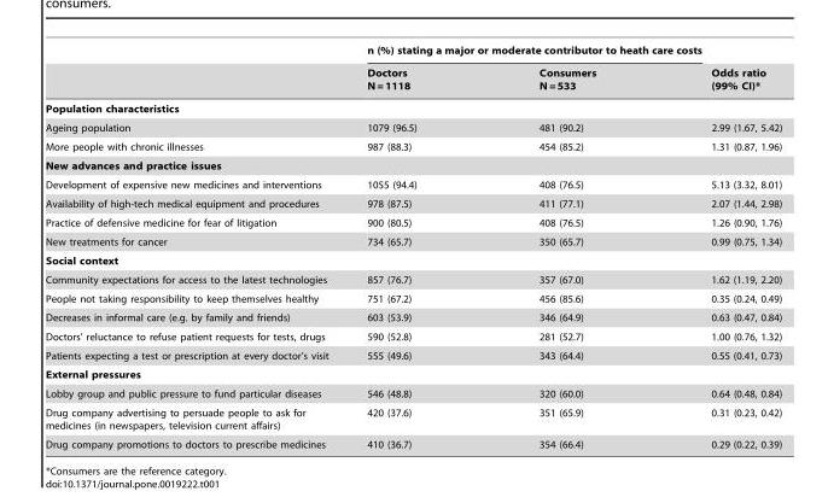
<table><thead><tr><td rowspan="2"></td><td colspan="2">n (%) stating a major or moderate contributor to heath care costs</td><td rowspan="2">Odds ratio (99% CI)*</td></tr><tr><td>Doctors N = 1118</td><td>Consumers N = 533</td></tr></thead><tbody><tr><td colspan="4">Population characteristics</td></tr><tr><td>Ageing population</td><td>1079 (96.5)</td><td>481 (90.2)</td><td>2.99 (1.67, 5.42)</td></tr><tr><td>More people with chronic illnesses</td><td>987 (88.3)</td><td>454 (85.2)</td><td>1.31 (0.87, 1.96)</td></tr><tr><td colspan="4">New advances and practice issues</td></tr><tr><td>Development of expensive new medicines and interventions</td><td>1055 (94.4)</td><td>408 (76.5)</td><td>5.13 (3.32, 8.01)</td></tr><tr><td>Availability of high-tech medical equipment and procedures</td><td>978 (87.5)</td><td>411 (77.1)</td><td>2.07 (1.44, 2.98)</td></tr><tr><td>Practice of defensive medicine for fear of litigation</td><td>900 (80.5)</td><td>408 (76.5)</td><td>1.26 (0.90, 1.76)</td></tr><tr><td>New treatments for cancer</td><td>734 (65.7)</td><td>350 (65.7)</td><td>0.99 (0.75, 1.34)</td></tr><tr><td colspan="4">Social context</td></tr><tr><td>Community expectations for access to the latest technologies</td><td>857 (76.7)</td><td>357 (67.0)</td><td>1.62 (1.19, 2.20)</td></tr><tr><td>People not taking responsibility to keep themselves healthy</td><td>751 (67.2)</td><td>456 (85.6)</td><td>0.35 (0.24, 0.49)</td></tr><tr><td>Decreases in informal care (e.g. by family and friends)</td><td>603 (53.9)</td><td>346 (64.9)</td><td>0.63 (0.47, 0.84)</td></tr><tr><td>Doctors’ reluctance to refuse patient requests for tests, drugs</td><td>590 (52.8)</td><td>281 (52.7)</td><td>1.00 (0.76, 1.32)</td></tr><tr><td>Patients expecting a test or prescription at every doctor’s visit</td><td>555 (49.6)</td><td>343 (64.4)</td><td>0.55 (0.41, 0.73)</td></tr><tr><td colspan="4">External pressures</td></tr><tr><td>Lobby group and public pressure to fund particular diseases</td><td>546 (48.8)</td><td>320 (60.0)</td><td>0.64 (0.48, 0.84)</td></tr><tr><td>Drug company advertising to persuade people to ask for medicines (in newspapers, television current affairs)</td><td>420 (37.6)</td><td>351 (65.9)</td><td>0.31 (0.23, 0.42)</td></tr><tr><td>Drug company promotions to doctors to prescribe medicines</td><td>410 (36.7)</td><td>354 (66.4)</td><td>0.29 (0.22, 0.39)</td></tr></tbody></table>